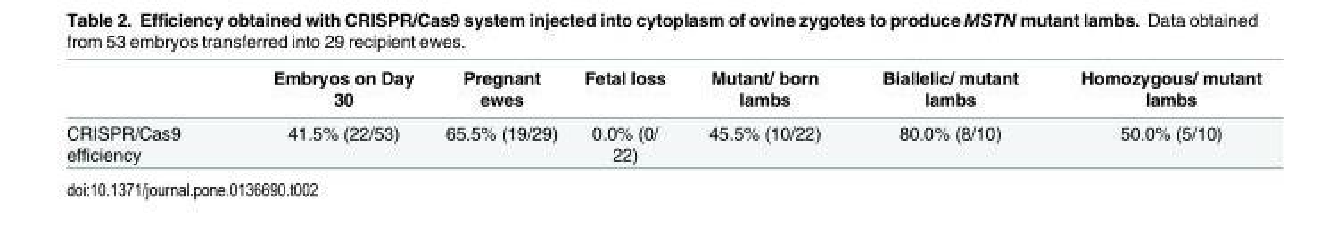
<table><thead><tr><td></td><td>Embryos on Day 30</td><td>Pregnant ewes</td><td>Fetal loss</td><td>Mutant/ born lambs</td><td>Biallelic/ mutant lambs</td><td>Homozygous/ mutant lambs</td></tr></thead><tbody><tr><td>CRISPR/Cas9 efficiency</td><td>41.5% (22/53)</td><td>65.5% (19/29)</td><td>0.0% (0/ 22)</td><td>45.5% (10/22)</td><td>80.0% (8/10)</td><td>50.0% (5/10)</td></tr></tbody></table>